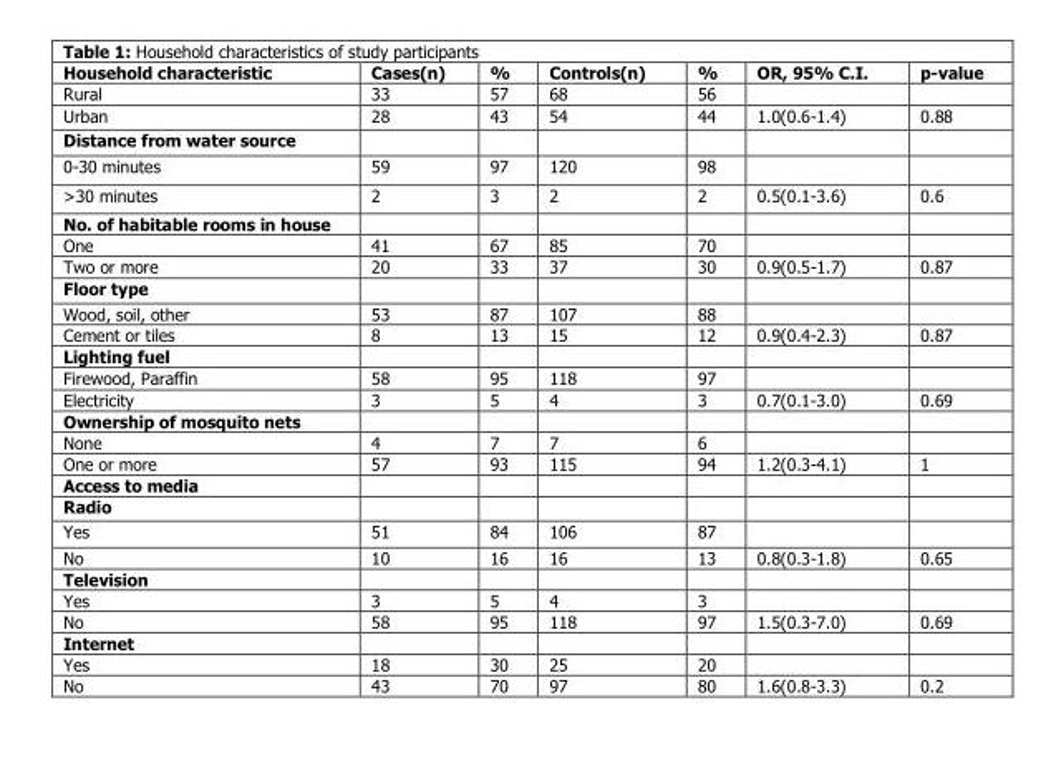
<table><thead><tr><td>Household characteristic</td><td>Cases(n)</td><td>%</td><td>Controls(n)</td><td>%</td><td>OR, 95% C.I.</td><td>p-value</td></tr></thead><tbody><tr><td>Rural</td><td>33</td><td>57</td><td>68</td><td>56</td><td></td><td></td></tr><tr><td>Urban</td><td>28</td><td>43</td><td>54</td><td>44</td><td>1.0(0.6-1.4)</td><td>0.88</td></tr><tr><td colspan="7">Distance from water source</td></tr><tr><td>0-30 minutes</td><td>59</td><td>97</td><td>120</td><td>98</td><td></td><td></td></tr><tr><td>&gt;30 minutes</td><td>2</td><td>3</td><td>2</td><td>2</td><td>0.5(0.1-3.6)</td><td>0.6</td></tr><tr><td colspan="7">No. of habitable rooms in house</td></tr><tr><td>One</td><td>41</td><td>67</td><td>85</td><td>70</td><td></td><td></td></tr><tr><td>Two or more</td><td>20</td><td>33</td><td>37</td><td>30</td><td>0.9(0.5-1.7)</td><td>0.87</td></tr><tr><td colspan="7">Floor type</td></tr><tr><td>Wood, soil, other</td><td>53</td><td>87</td><td>107</td><td>88</td><td></td><td></td></tr><tr><td>Cement or tiles</td><td>8</td><td>13</td><td>15</td><td>12</td><td>0.9(0.4-2.3)</td><td>0.87</td></tr><tr><td colspan="7">Lighting fuel</td></tr><tr><td>Firewood, Paraffin</td><td>58</td><td>95</td><td>118</td><td>97</td><td></td><td></td></tr><tr><td>Electricity</td><td>3</td><td>5</td><td>4</td><td>3</td><td>0.7(0.1-3.0)</td><td>0.69</td></tr><tr><td colspan="7">Ownership of mosquito nets</td></tr><tr><td>None</td><td>4</td><td>7</td><td>7</td><td>6</td><td></td><td></td></tr><tr><td>One or more</td><td>57</td><td>93</td><td>115</td><td>94</td><td>1.2(0.3-4.1)</td><td>1</td></tr><tr><td colspan="7">Access to media</td></tr><tr><td colspan="7">Radio</td></tr><tr><td>Yes</td><td>51</td><td>84</td><td>106</td><td>87</td><td></td><td></td></tr><tr><td>No</td><td>10</td><td>16</td><td>16</td><td>13</td><td>0.8(0.3-1.8)</td><td>0.65</td></tr><tr><td colspan="7">Television</td></tr><tr><td>Yes</td><td>3</td><td>5</td><td>4</td><td>3</td><td></td><td></td></tr><tr><td>No</td><td>58</td><td>95</td><td>118</td><td>97</td><td>1.5(0.3-7.0)</td><td>0.69</td></tr><tr><td colspan="7">Internet</td></tr><tr><td>Yes</td><td>18</td><td>30</td><td>25</td><td>20</td><td></td><td></td></tr><tr><td>No</td><td>43</td><td>70</td><td>97</td><td>80</td><td>1.6(0.8-3.3)</td><td>0.2</td></tr></tbody></table>